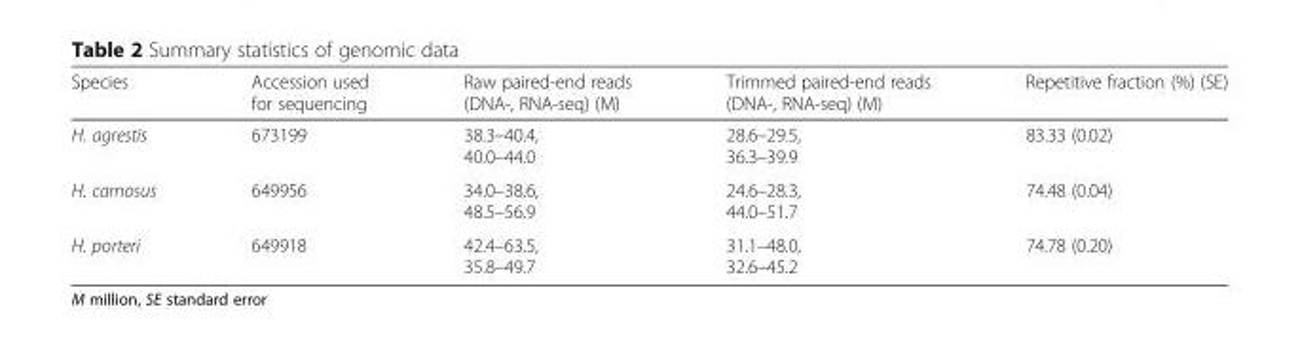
<table><thead><tr><td>Species</td><td>Accession used for sequencing</td><td>Raw paired-end reads (DNA-, RNA-seq) (M)</td><td>Trimmed paired-end reads (DNA-, RNA-seq) (M)</td><td>Repetitive fraction (%) (SE)</td></tr></thead><tbody><tr><td>H. agrestis</td><td>673199</td><td>38.3–40.4, 40.0–44.0</td><td>28.6–29.5, 36.3–39.9</td><td>83.33 (0.02)</td></tr><tr><td>H. carnosus</td><td>649956</td><td>34.0–38.6, 48.5–56.9</td><td>24.6–28.3, 44.0–51.7</td><td>74.48 (0.04)</td></tr><tr><td>H. porteri</td><td>649918</td><td>42.4–63.5, 35.8–49.7</td><td>31.1–48.0, 32.6–45.2</td><td>74.78 (0.20)</td></tr></tbody></table>